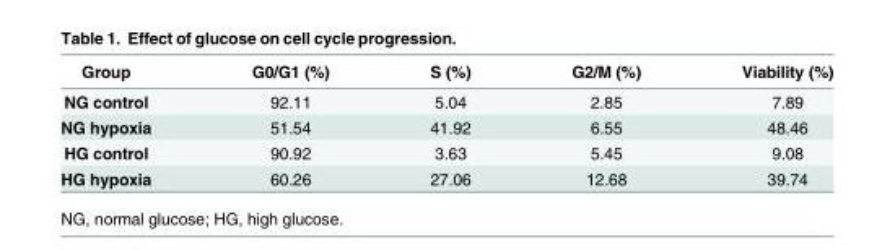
<table><thead><tr><td>Group</td><td>G0/G1 (%)</td><td>S (%)</td><td>G2/M (%)</td><td>Viability (%)</td></tr></thead><tbody><tr><td>NG control</td><td>92.11</td><td>5.04</td><td>2.85</td><td>7.89</td></tr><tr><td>NG hypoxia</td><td>51.54</td><td>41.92</td><td>6.55</td><td>48.46</td></tr><tr><td>HG control</td><td>90.92</td><td>3.63</td><td>5.45</td><td>9.08</td></tr><tr><td>HG hypoxia</td><td>60.26</td><td>27.06</td><td>12.68</td><td>39.74</td></tr></tbody></table>